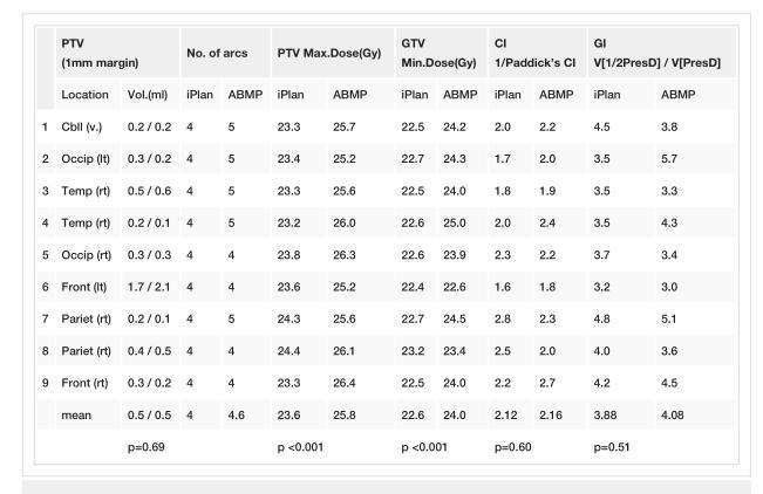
<table><thead><tr><td rowspan="2"></td><td colspan="2">PTV (1mm margin)</td><td colspan="2">No. of arcs</td><td colspan="2">PTV Max.Dose(Gy)</td><td colspan="2">GTV Min.Dose(Gy)</td><td colspan="2">CI 1/Paddick’s CI</td><td colspan="2">GI V[1/2PresD] / V[PresD]</td></tr><tr><td>Location</td><td>Vol.(ml)</td><td>iPlan</td><td>ABMP</td><td>iPlan</td><td>ABMP</td><td>iPlan</td><td>ABMP</td><td>iPlan</td><td>ABMP</td><td>iPlan</td><td>ABMP</td></tr></thead><tbody><tr><td>1</td><td>Cbll (v.)</td><td>0.2 / 0.2</td><td>4</td><td>5</td><td>23.3</td><td>25.7</td><td>22.5</td><td>24.2</td><td>2.0</td><td>2.2</td><td>4.5</td><td>3.8</td></tr><tr><td>2</td><td>Occip (lt)</td><td>0.3 / 0.2</td><td>4</td><td>5</td><td>23.4</td><td>25.2</td><td>22.7</td><td>24.3</td><td>1.7</td><td>2.0</td><td>3.5</td><td>5.7</td></tr><tr><td>3</td><td>Temp (rt)</td><td>0.5 / 0.6</td><td>4</td><td>5</td><td>23.3</td><td>25.6</td><td>22.5</td><td>24.0</td><td>1.8</td><td>1.9</td><td>3.5</td><td>3.3</td></tr><tr><td>4</td><td>Temp (rt)</td><td>0.2 / 0.1</td><td>4</td><td>5</td><td>23.2</td><td>26.0</td><td>22.6</td><td>25.0</td><td>2.0</td><td>2.4</td><td>3.5</td><td>4.3</td></tr><tr><td>5</td><td>Occip (rt)</td><td>0.3 / 0.3</td><td>4</td><td>4</td><td>23.8</td><td>26.3</td><td>22.6</td><td>23.9</td><td>2.3</td><td>2.2</td><td>3.7</td><td>3.4</td></tr><tr><td>6</td><td>Front (lt)</td><td>1.7 / 2.1</td><td>4</td><td>4</td><td>23.6</td><td>25.2</td><td>22.4</td><td>22.6</td><td>1.6</td><td>1.8</td><td>3.2</td><td>3.0</td></tr><tr><td>7</td><td>Pariet (rt)</td><td>0.2 / 0.1</td><td>4</td><td>5</td><td>24.3</td><td>25.6</td><td>22.7</td><td>24.5</td><td>2.8</td><td>2.3</td><td>4.8</td><td>5.1</td></tr><tr><td>8</td><td>Pariet (rt)</td><td>0.4 / 0.5</td><td>4</td><td>4</td><td>24.4</td><td>26.1</td><td>23.2</td><td>23.4</td><td>2.5</td><td>2.0</td><td>4.0</td><td>3.6</td></tr><tr><td rowspan="3">9</td><td>Front (rt)</td><td>0.3 / 0.2</td><td>4</td><td>4</td><td>23.3</td><td>26.4</td><td>22.5</td><td>24.0</td><td>2.2</td><td>2.7</td><td>4.2</td><td>4.5</td></tr><tr><td>mean</td><td>0.5 / 0.5</td><td>4</td><td>4.6</td><td>23.6</td><td>25.8</td><td>22.6</td><td>24.0</td><td>2.12</td><td>2.16</td><td>3.88</td><td>4.08</td></tr><tr><td></td><td>p=0.69</td><td colspan="2"></td><td colspan="2">p &lt;0.001</td><td colspan="2">p &lt;0.001</td><td colspan="2">p=0.60</td><td colspan="2">p=0.51</td></tr></tbody></table>